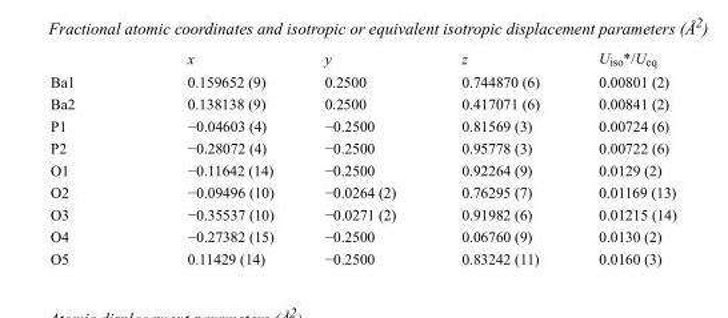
<table><thead><tr><td></td><td>x</td><td>y</td><td>z</td><td>U<sub>iso</sub>*/U<sub>eq</sub></td></tr></thead><tbody><tr><td>Ba1</td><td>0.159652 (9)</td><td>0.2500</td><td>0.744870 (6)</td><td>0.00801 (2)</td></tr><tr><td>Ba2</td><td>0.138138 (9)</td><td>0.2500</td><td>0.417071 (6)</td><td>0.00841 (2)</td></tr><tr><td>P1</td><td>−0.04603 (4)</td><td>−0.2500</td><td>0.81569 (3)</td><td>0.00724 (6)</td></tr><tr><td>P2</td><td>−0.28072 (4)</td><td>−0.2500</td><td>0.95778 (3)</td><td>0.00722 (6)</td></tr><tr><td>O1</td><td>−0.11642 (14)</td><td>−0.2500</td><td>0.92264 (9)</td><td>0.0129 (2)</td></tr><tr><td>O2</td><td>−0.09496 (10)</td><td>−0.0264 (2)</td><td>0.76295 (7)</td><td>0.01169 (13)</td></tr><tr><td>O3</td><td>−0.35537 (10)</td><td>−0.0271 (2)</td><td>0.91982 (6)</td><td>0.01215 (14)</td></tr><tr><td>O4</td><td>−0.27382 (15)</td><td>−0.2500</td><td>0.06760 (9)</td><td>0.0130 (2)</td></tr><tr><td>O5</td><td>0.11429 (14)</td><td>−0.2500</td><td>0.83242 (11)</td><td>0.0160 (3)</td></tr></tbody></table>